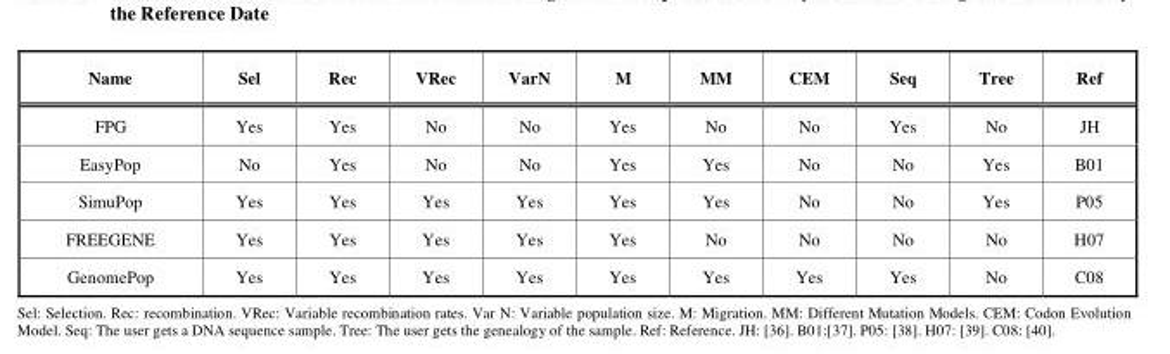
<table><thead><tr><td>Name</td><td>Sel</td><td>Rec</td><td>VRec</td><td>VarN</td><td>M</td><td>MM</td><td>CEM</td><td>Seq</td><td>Tree</td><td>Ref</td></tr></thead><tbody><tr><td>FPG</td><td>Yes</td><td>Yes</td><td>No</td><td>No</td><td>Yes</td><td>No</td><td>No</td><td>Yes</td><td>No</td><td>JH</td></tr><tr><td>EasyPop</td><td>No</td><td>Yes</td><td>No</td><td>No</td><td>Yes</td><td>Yes</td><td>No</td><td>No</td><td>Yes</td><td>B01</td></tr><tr><td>SimuPop</td><td>Yes</td><td>Yes</td><td>Yes</td><td>Yes</td><td>Yes</td><td>Yes</td><td>No</td><td>No</td><td>Yes</td><td>P05</td></tr><tr><td>FREEGENE</td><td>Yes</td><td>Yes</td><td>Yes</td><td>Yes</td><td>Yes</td><td>No</td><td>No</td><td>No</td><td>No</td><td>H07</td></tr><tr><td>GenomePop</td><td>Yes</td><td>Yes</td><td>Yes</td><td>Yes</td><td>Yes</td><td>Yes</td><td>Yes</td><td>Yes</td><td>No</td><td>C08</td></tr></tbody></table>